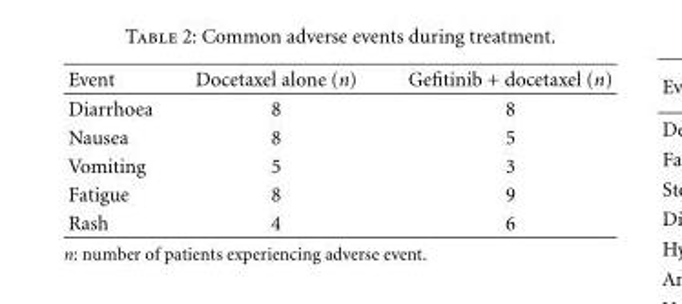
<table><thead><tr><td>Event</td><td>Docetaxel alone (n)</td><td>Gefitinib + docetaxel (n)</td></tr></thead><tbody><tr><td>Diarrhoea</td><td>8</td><td>8</td></tr><tr><td>Nausea</td><td>8</td><td>5</td></tr><tr><td>Vomiting</td><td>5</td><td>3</td></tr><tr><td>Fatigue</td><td>8</td><td>9</td></tr><tr><td>Rash</td><td>4</td><td>6</td></tr></tbody></table>